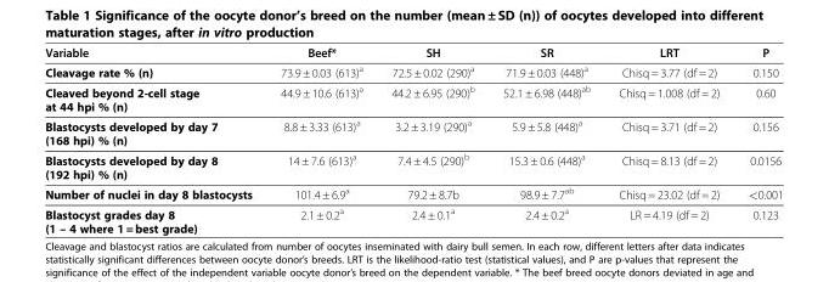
<table><thead><tr><td>Variable</td><td>Beef*</td><td>SH</td><td>SR</td><td>LRT</td><td>P</td></tr></thead><tbody><tr><td>Cleavage rate % (n)</td><td>73.9 ± 0.03 (613)<sup>a</sup></td><td>72.5 ± 0.02 (290)<sup>a</sup></td><td>71.9 ± 0.03 (448)<sup>a</sup></td><td>Chisq = 3.77 (df = 2)</td><td>0.150</td></tr><tr><td>Cleaved beyond 2-cell stage at 44 hpi % (n)</td><td>44.9 ± 10.6 (613)<sup>a</sup></td><td>44.2 ± 6.95 (290)<sup>b</sup></td><td>52.1 ± 6.98 (448)<sup>ab</sup></td><td>Chisq = 1.008 (df = 2)</td><td>0.60</td></tr><tr><td>Blastocysts developed by day 7 (168 hpi) % (n)</td><td>8.8 ± 3.33 (613)<sup>a</sup></td><td>3.2 ± 3.19 (290)<sup>a</sup></td><td>5.9 ± 5.8 (448)<sup>a</sup></td><td>Chisq = 3.71 (df = 2)</td><td>0.156</td></tr><tr><td>Blastocysts developed by day 8 (192 hpi) % (n)</td><td>14 ± 7.6 (613)<sup>a</sup></td><td>7.4 ± 4.5 (290)<sup>b</sup></td><td>15.3 ± 0.6 (448)<sup>a</sup></td><td>Chisq = 8.13 (df = 2)</td><td>0.0156</td></tr><tr><td>Number of nuclei in day 8 blastocysts</td><td>101.4 ± 6.9<sup>a</sup></td><td>79.2 ± 8.7b</td><td>98.9 ± 7.7<sup>ab</sup></td><td>Chisq = 23.02 (df = 2)</td><td>&lt;0.001</td></tr><tr><td>Blastocyst grades day 8 (1 – 4 where 1 = best grade)</td><td>2.1 ± 0.2<sup>a</sup></td><td>2.4 ± 0.1<sup>a</sup></td><td>2.4 ± 0.2<sup>a</sup></td><td>LR = 4.19 (df = 2)</td><td>0.123</td></tr></tbody></table>